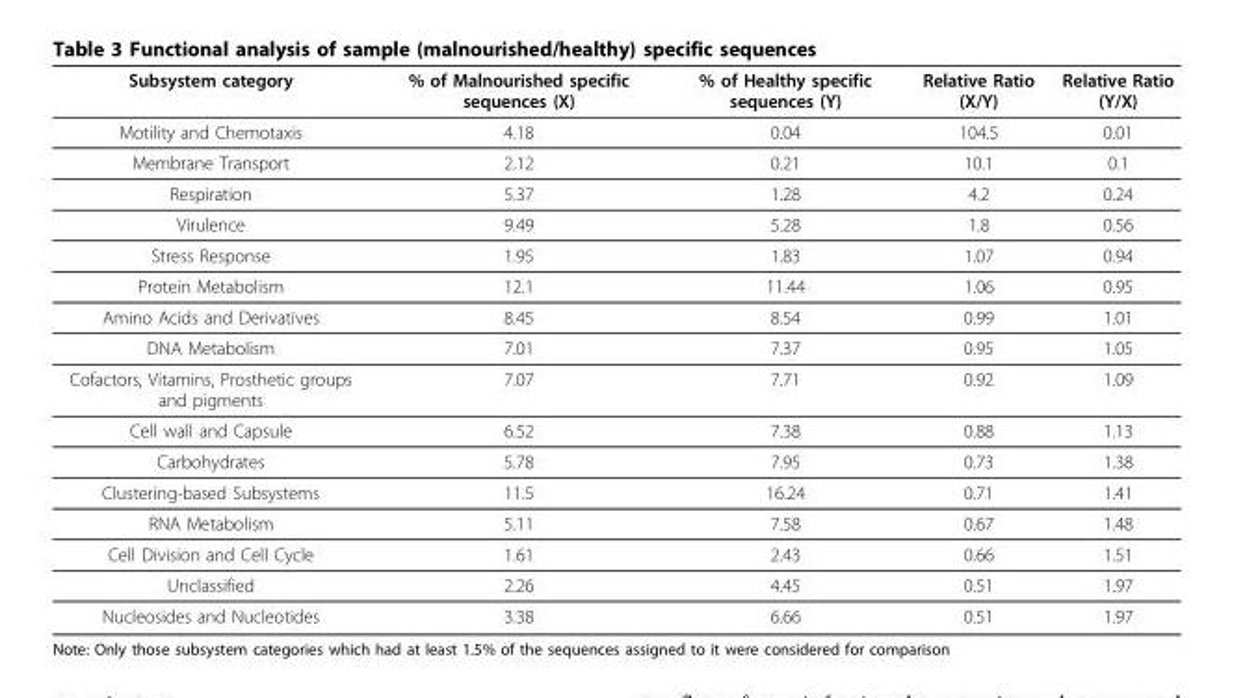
<table><thead><tr><td>Subsystem category</td><td>% of Malnourished specific sequences (X)</td><td>% of Healthy specific sequences (Y)</td><td>Relative Ratio (X/Y)</td><td>Relative Ratio (Y/X)</td></tr></thead><tbody><tr><td>Motility and Chemotaxis</td><td>4.18</td><td>0.04</td><td>104.5</td><td>0.01</td></tr><tr><td>Membrane Transport</td><td>2.12</td><td>0.21</td><td>10.1</td><td>0.1</td></tr><tr><td>Respiration</td><td>5.37</td><td>1.28</td><td>4.2</td><td>0.24</td></tr><tr><td>Virulence</td><td>9.49</td><td>5.28</td><td>1.8</td><td>0.56</td></tr><tr><td>Stress Response</td><td>1.95</td><td>1.83</td><td>1.07</td><td>0.94</td></tr><tr><td>Protein Metabolism</td><td>12.1</td><td>11.44</td><td>1.06</td><td>0.95</td></tr><tr><td>Amino Acids and Derivatives</td><td>8.45</td><td>8.54</td><td>0.99</td><td>1.01</td></tr><tr><td>DNA Metabolism</td><td>7.01</td><td>7.37</td><td>0.95</td><td>1.05</td></tr><tr><td>Cofactors, Vitamins, Prosthetic groups and pigments</td><td>7.07</td><td>7.71</td><td>0.92</td><td>1.09</td></tr><tr><td>Cell wall and Capsule</td><td>6.52</td><td>7.38</td><td>0.88</td><td>1.13</td></tr><tr><td>Carbohydrates</td><td>5.78</td><td>7.95</td><td>0.73</td><td>1.38</td></tr><tr><td>Clustering-based Subsystems</td><td>11.5</td><td>16.24</td><td>0.71</td><td>1.41</td></tr><tr><td>RNA Metabolism</td><td>5.11</td><td>7.58</td><td>0.67</td><td>1.48</td></tr><tr><td>Cell Division and Cell Cycle</td><td>1.61</td><td>2.43</td><td>0.66</td><td>1.51</td></tr><tr><td>Unclassified</td><td>2.26</td><td>4.45</td><td>0.51</td><td>1.97</td></tr><tr><td>Nucleosides and Nucleotides</td><td>3.38</td><td>6.66</td><td>0.51</td><td>1.97</td></tr></tbody></table>